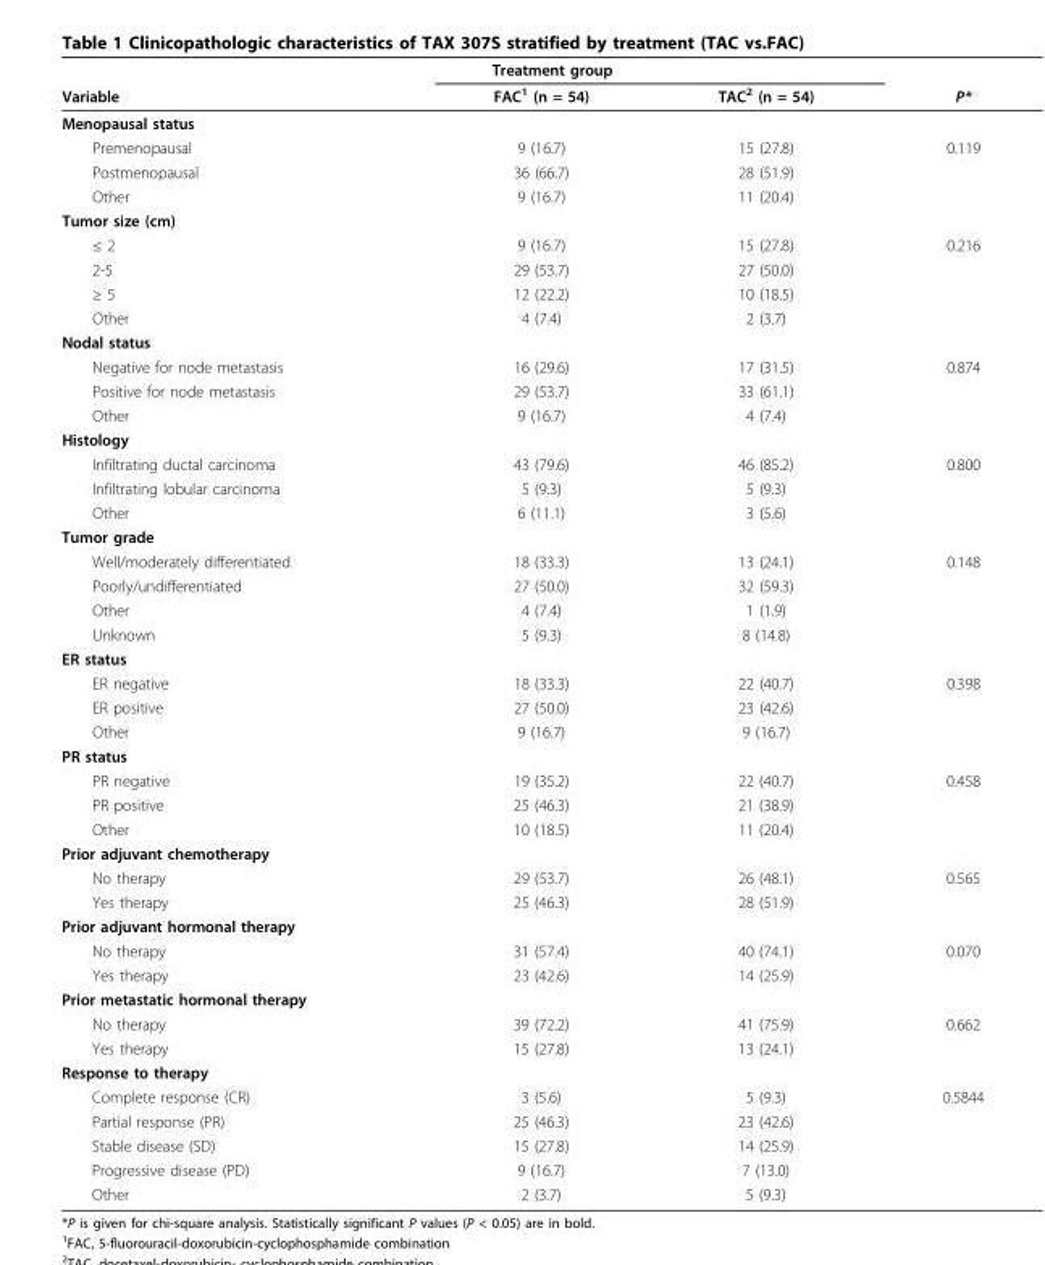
<table><thead><tr><td colspan="4">Treatment group</td></tr><tr><td>Variable</td><td>FAC<sup>1</sup> (n = 54)</td><td>TAC<sup>2</sup> (n = 54)</td><td>P*</td></tr></thead><tbody><tr><td colspan="4">Menopausal status</td></tr><tr><td>Premenopausal</td><td>9 (16.7)</td><td>15 (27.8)</td><td>0.119</td></tr><tr><td>Postmenopausal</td><td>36 (66.7)</td><td>28 (51.9)</td><td></td></tr><tr><td>Other</td><td>9 (16.7)</td><td>11 (20.4)</td><td></td></tr><tr><td colspan="4">Tumor size (cm)</td></tr><tr><td>≤ 2</td><td>9 (16.7)</td><td>15 (27.8)</td><td>0.216</td></tr><tr><td>2-5</td><td>29 (53.7)</td><td>27 (50.0)</td><td></td></tr><tr><td>≥ 5</td><td>12 (22.2)</td><td>10 (18.5)</td><td></td></tr><tr><td>Other</td><td>4 (7.4)</td><td>2 (3.7)</td><td></td></tr><tr><td colspan="4">Nodal status</td></tr><tr><td>Negative for node metastasis</td><td>16 (29.6)</td><td>17 (31.5)</td><td>0.874</td></tr><tr><td>Positive for node metastasis</td><td>29 (53.7)</td><td>33 (61.1)</td><td></td></tr><tr><td>Other</td><td>9 (16.7)</td><td>4 (7.4)</td><td></td></tr><tr><td colspan="4">Histology</td></tr><tr><td>Infiltrating ductal carcinoma</td><td>43 (79.6)</td><td>46 (85.2)</td><td>0.800</td></tr><tr><td>Infiltrating lobular carcinoma</td><td>5 (9.3)</td><td>5 (9.3)</td><td></td></tr><tr><td>Other</td><td>6 (11.1)</td><td>3 (5.6)</td><td></td></tr><tr><td colspan="4">Tumor grade</td></tr><tr><td>Well/moderately differentiated</td><td>18 (33.3)</td><td>13 (24.1)</td><td>0.148</td></tr><tr><td>Poorly/undifferentiated</td><td>27 (50.0)</td><td>32 (59.3)</td><td></td></tr><tr><td>Other</td><td>4 (7.4)</td><td>1 (1.9)</td><td></td></tr><tr><td>Unknown</td><td>5 (9.3)</td><td>8 (14.8)</td><td></td></tr><tr><td colspan="4">ER status</td></tr><tr><td>ER negative</td><td>18 (33.3)</td><td>22 (40.7)</td><td>0.398</td></tr><tr><td>ER positive</td><td>27 (50.0)</td><td>23 (42.6)</td><td></td></tr><tr><td>Other</td><td>9 (16.7)</td><td>9 (16.7)</td><td></td></tr><tr><td colspan="4">PR status</td></tr><tr><td>PR negative</td><td>19 (35.2)</td><td>22 (40.7)</td><td>0.458</td></tr><tr><td>PR positive</td><td>25 (46.3)</td><td>21 (38.9)</td><td></td></tr><tr><td>Other</td><td>10 (18.5)</td><td>11 (20.4)</td><td></td></tr><tr><td colspan="4">Prior adjuvant chemotherapy</td></tr><tr><td>No therapy</td><td>29 (53.7)</td><td>26 (48.1)</td><td>0.565</td></tr><tr><td>Yes therapy</td><td>25 (46.3)</td><td>28 (51.9)</td><td></td></tr><tr><td colspan="4">Prior adjuvant hormonal therapy</td></tr><tr><td>No therapy</td><td>31 (57.4)</td><td>40 (74.1)</td><td>0.070</td></tr><tr><td>Yes therapy</td><td>23 (42.6)</td><td>14 (25.9)</td><td></td></tr><tr><td colspan="4">Prior metastatic hormonal therapy</td></tr><tr><td>No therapy</td><td>39 (72.2)</td><td>41 (75.9)</td><td>0.662</td></tr><tr><td>Yes therapy</td><td>15 (27.8)</td><td>13 (24.1)</td><td></td></tr><tr><td colspan="4">Response to therapy</td></tr><tr><td>Complete response (CR)</td><td>3 (5.6)</td><td>5 (9.3)</td><td>0.5844</td></tr><tr><td>Partial response (PR)</td><td>25 (46.3)</td><td>23 (42.6)</td><td></td></tr><tr><td>Stable disease (SD)</td><td>15 (27.8)</td><td>14 (25.9)</td><td></td></tr><tr><td>Progressive disease (PD)</td><td>9 (16.7)</td><td>7 (13.0)</td><td></td></tr><tr><td>Other</td><td>2 (3.7)</td><td>5 (9.3)</td><td></td></tr></tbody></table>